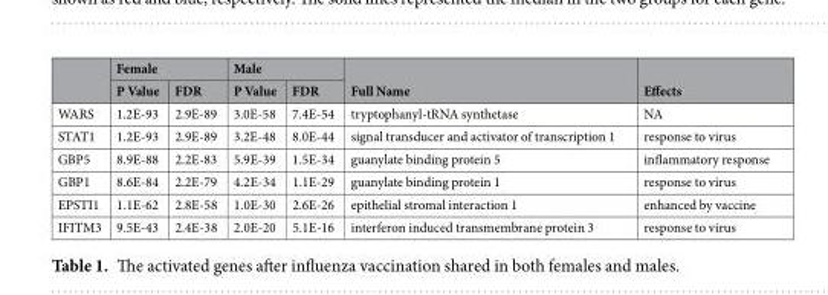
<table><thead><tr><td rowspan="2"></td><td colspan="2">Female</td><td colspan="2">Male</td><td rowspan="2">Full Name</td><td rowspan="2">Effects</td></tr><tr><td>P Value</td><td>FDR</td><td>P Value</td><td>FDR</td></tr></thead><tbody><tr><td>WARS</td><td>1.2E-93</td><td>2.9E-89</td><td>3.0E-58</td><td>7.4E-54</td><td>tryptophanyl-tRNA synthetase</td><td>NA</td></tr><tr><td>STAT1</td><td>1.2E-93</td><td>2.9E-89</td><td>3.2E-48</td><td>8.0E-44</td><td>signal transducer and activator of transcription 1</td><td>response to virus</td></tr><tr><td>GBP5</td><td>8.9E-88</td><td>2.2E-83</td><td>5.9E-39</td><td>1.5E-34</td><td>guanylate binding protein 5</td><td>inflammatory response</td></tr><tr><td>GBP1</td><td>8.6E-84</td><td>2.2E-79</td><td>4.2E-34</td><td>1.1E-29</td><td>guanylate binding protein 1</td><td>response to virus</td></tr><tr><td>EPSTI1</td><td>1.1E-62</td><td>2.8E-58</td><td>1.0E-30</td><td>2.6E-26</td><td>epithelial stromal interaction 1</td><td>enhanced by vaccine</td></tr><tr><td>IFITM3</td><td>9.5E-43</td><td>2.4E-38</td><td>2.0E-20</td><td>5.1E-16</td><td>interferon induced transmembrane protein 3</td><td>response to virus</td></tr></tbody></table>